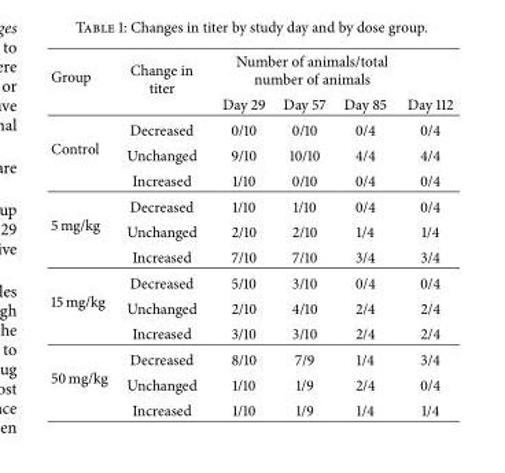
<table><thead><tr><td rowspan="2">Group</td><td rowspan="2">Change in titer</td><td colspan="4">Number of animals/total number of animals</td></tr><tr><td>Day 29</td><td>Day 57</td><td>Day 85</td><td>Day 112</td></tr></thead><tbody><tr><td rowspan="3">Control</td><td>Decreased</td><td>0/10</td><td>0/10</td><td>0/4</td><td>0/4</td></tr><tr><td>Unchanged</td><td>9/10</td><td>10/10</td><td>4/4</td><td>4/4</td></tr><tr><td>Increased</td><td>1/10</td><td>0/10</td><td>0/4</td><td>0/4</td></tr><tr><td rowspan="3">5 mg/kg</td><td>Decreased</td><td>1/10</td><td>1/10</td><td>0/4</td><td>0/4</td></tr><tr><td>Unchanged</td><td>2/10</td><td>2/10</td><td>1/4</td><td>1/4</td></tr><tr><td>Increased</td><td>7/10</td><td>7/10</td><td>3/4</td><td>3/4</td></tr><tr><td rowspan="3">15 mg/kg</td><td>Decreased</td><td>5/10</td><td>3/10</td><td>0/4</td><td>0/4</td></tr><tr><td>Unchanged</td><td>2/10</td><td>4/10</td><td>2/4</td><td>2/4</td></tr><tr><td>Increased</td><td>3/10</td><td>3/10</td><td>2/4</td><td>2/4</td></tr><tr><td rowspan="3">50 mg/kg</td><td>Decreased</td><td>8/10</td><td>7/9</td><td>1/4</td><td>3/4</td></tr><tr><td>Unchanged</td><td>1/10</td><td>1/9</td><td>2/4</td><td>0/4</td></tr><tr><td>Increased</td><td>1/10</td><td>1/9</td><td>1/4</td><td>1/4</td></tr></tbody></table>